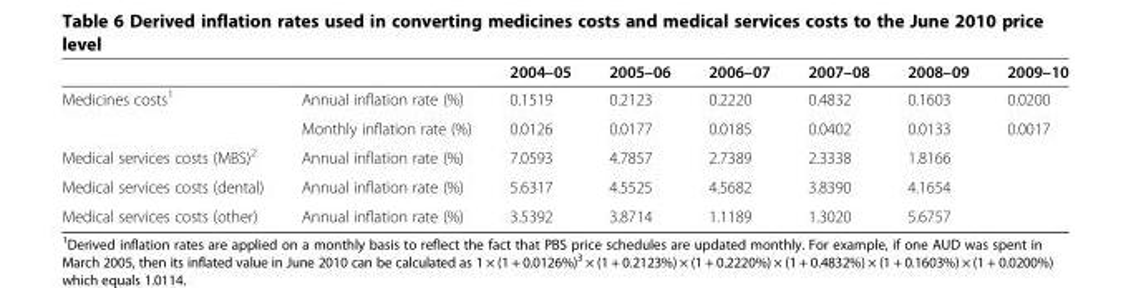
<table><thead><tr><td></td><td></td><td>2004–05</td><td>2005–06</td><td>2006–07</td><td>2007–08</td><td>2008–09</td><td>2009–10</td></tr></thead><tbody><tr><td rowspan="2">Medicines costs<sup>1</sup></td><td>Annual inflation rate (%)</td><td>0.1519</td><td>0.2123</td><td>0.2220</td><td>0.4832</td><td>0.1603</td><td>0.0200</td></tr><tr><td>Monthly inflation rate (%)</td><td>0.0126</td><td>0.0177</td><td>0.0185</td><td>0.0402</td><td>0.0133</td><td>0.0017</td></tr><tr><td>Medical services costs (MBS)<sup>2</sup></td><td>Annual inflation rate (%)</td><td>7.0593</td><td>4.7857</td><td>2.7389</td><td>2.3338</td><td>1.8166</td><td></td></tr><tr><td>Medical services costs (dental)</td><td>Annual inflation rate (%)</td><td>5.6317</td><td>4.5525</td><td>4.5682</td><td>3.8390</td><td>4.1654</td><td></td></tr><tr><td>Medical services costs (other)</td><td>Annual inflation rate (%)</td><td>3.5392</td><td>3.8714</td><td>1.1189</td><td>1.3020</td><td>5.6757</td><td></td></tr></tbody></table>